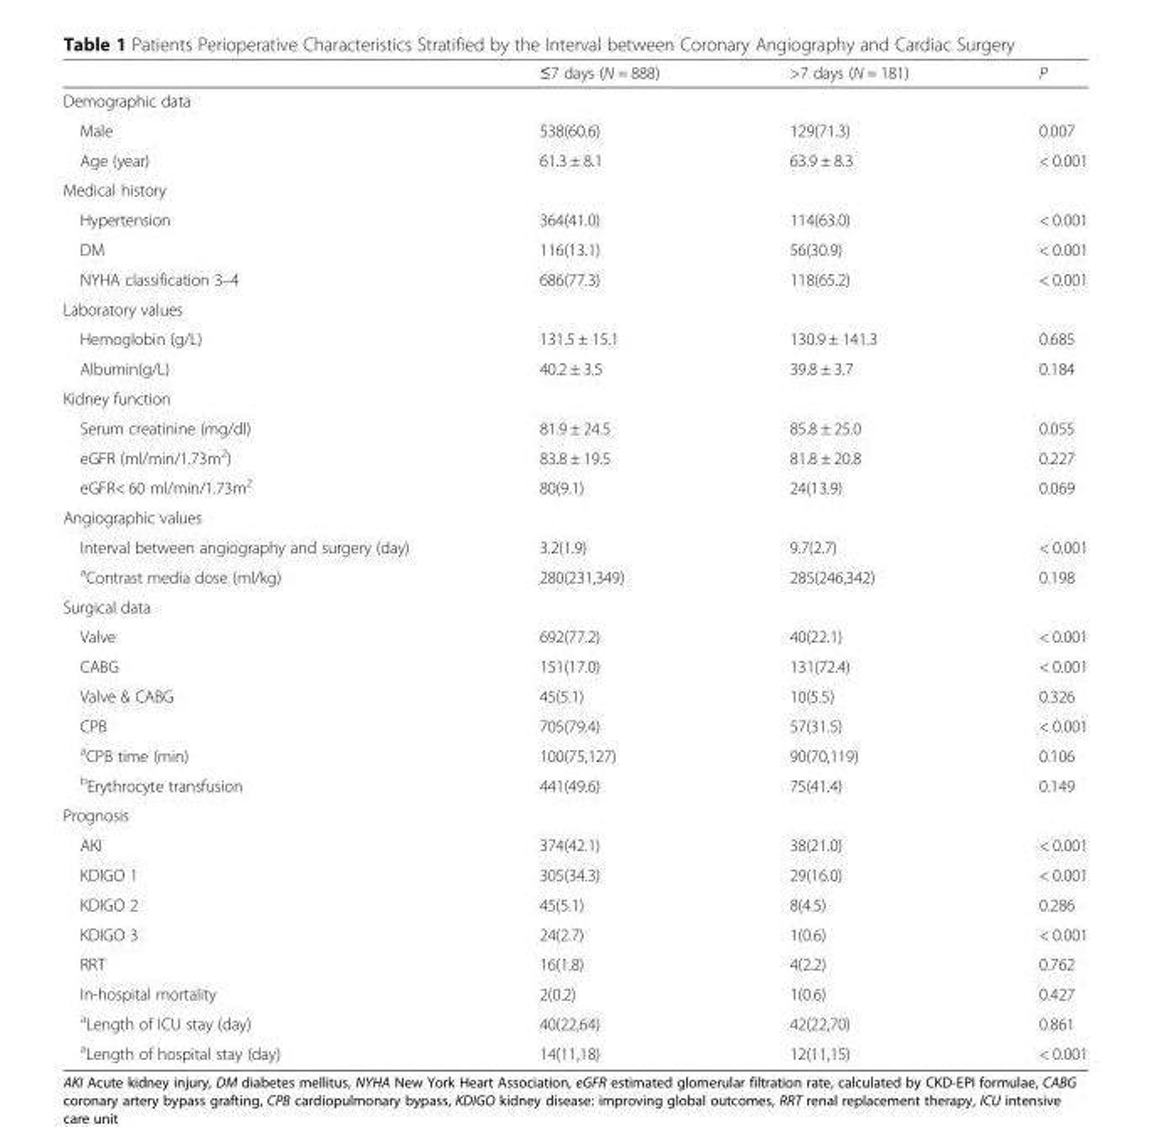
<table><thead><tr><td></td><td>≤7 days (N = 888)</td><td>&gt;7 days (N = 181)</td><td>P</td></tr></thead><tbody><tr><td colspan="4">Demographic data</td></tr><tr><td>Male</td><td>538(60.6)</td><td>129(71.3)</td><td>0.007</td></tr><tr><td>Age (year)</td><td>61.3 ± 8.1</td><td>63.9 ± 8.3</td><td>&lt; 0.001</td></tr><tr><td colspan="4">Medical history</td></tr><tr><td>Hypertension</td><td>364(41.0)</td><td>114(63.0)</td><td>&lt; 0.001</td></tr><tr><td>DM</td><td>116(13.1)</td><td>56(30.9)</td><td>&lt; 0.001</td></tr><tr><td>NYHA classification 3–4</td><td>686(77.3)</td><td>118(65.2)</td><td>&lt; 0.001</td></tr><tr><td colspan="4">Laboratory values</td></tr><tr><td>Hemoglobin (g/L)</td><td>131.5 ± 15.1</td><td>130.9 ± 141.3</td><td>0.685</td></tr><tr><td>Albumin(g/L)</td><td>40.2 ± 3.5</td><td>39.8 ± 3.7</td><td>0.184</td></tr><tr><td colspan="4">Kidney function</td></tr><tr><td>Serum creatinine (mg/dl)</td><td>81.9 ± 24.5</td><td>85.8 ± 25.0</td><td>0.055</td></tr><tr><td>eGFR (ml/min/1.73m<sup>2</sup>)</td><td>83.8 ± 19.5</td><td>81.8 ± 20.8</td><td>0.227</td></tr><tr><td>eGFR&lt; 60 ml/min/1.73m<sup>2</sup></td><td>80(9.1)</td><td>24(13.9)</td><td>0.069</td></tr><tr><td colspan="4">Angiographic values</td></tr><tr><td>Interval between angiography and surgery (day)</td><td>3.2(1.9)</td><td>9.7(2.7)</td><td>&lt; 0.001</td></tr><tr><td><sup>a</sup>Contrast media dose (ml/kg)</td><td>280(231,349)</td><td>285(246,342)</td><td>0.198</td></tr><tr><td colspan="4">Surgical data</td></tr><tr><td>Valve</td><td>692(77.2)</td><td>40(22.1)</td><td>&lt; 0.001</td></tr><tr><td>CABG</td><td>151(17.0)</td><td>131(72.4)</td><td>&lt; 0.001</td></tr><tr><td>Valve &amp; CABG</td><td>45(5.1)</td><td>10(5.5)</td><td>0.326</td></tr><tr><td>CPB</td><td>705(79.4)</td><td>57(31.5)</td><td>&lt; 0.001</td></tr><tr><td><sup>a</sup>CPB time (min)</td><td>100(75,127)</td><td>90(70,119)</td><td>0.106</td></tr><tr><td><sup>b</sup>Erythrocyte transfusion</td><td>441(49.6)</td><td>75(41.4)</td><td>0.149</td></tr><tr><td colspan="4">Prognosis</td></tr><tr><td>AKI</td><td>374(42.1)</td><td>38(21.0)</td><td>&lt; 0.001</td></tr><tr><td>KDIGO 1</td><td>305(34.3)</td><td>29(16.0)</td><td>&lt; 0.001</td></tr><tr><td>KDIGO 2</td><td>45(5.1)</td><td>8(4.5)</td><td>0.286</td></tr><tr><td>KDIGO 3</td><td>24(2.7)</td><td>1(0.6)</td><td>&lt; 0.001</td></tr><tr><td>RRT</td><td>16(1.8)</td><td>4(2.2)</td><td>0.762</td></tr><tr><td>In-hospital mortality</td><td>2(0.2)</td><td>1(0.6)</td><td>0.427</td></tr><tr><td><sup>a</sup>Length of ICU stay (day)</td><td>40(22,64)</td><td>42(22,70)</td><td>0.861</td></tr><tr><td><sup>a</sup>Length of hospital stay (day)</td><td>14(11,18)</td><td>12(11,15)</td><td>&lt; 0.001</td></tr></tbody></table>